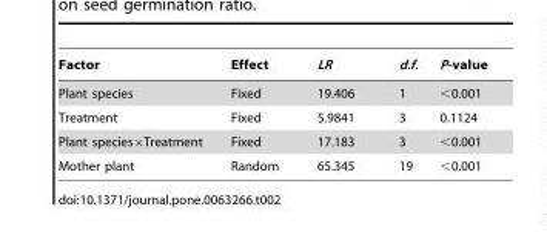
<table><thead><tr><td>Factor</td><td>Effect</td><td>LR</td><td>d.f.</td><td>P-value</td></tr></thead><tbody><tr><td>Plant species</td><td>Fixed</td><td>19.406</td><td>1</td><td>&lt;0.001</td></tr><tr><td>Treatment</td><td>Fixed</td><td>5.9841</td><td>3</td><td>0.1124</td></tr><tr><td>Plant species×Treatment</td><td>Fixed</td><td>17.183</td><td>3</td><td>&lt;0.001</td></tr><tr><td>Mother plant</td><td>Random</td><td>65.345</td><td>19</td><td>&lt;0.001</td></tr></tbody></table>